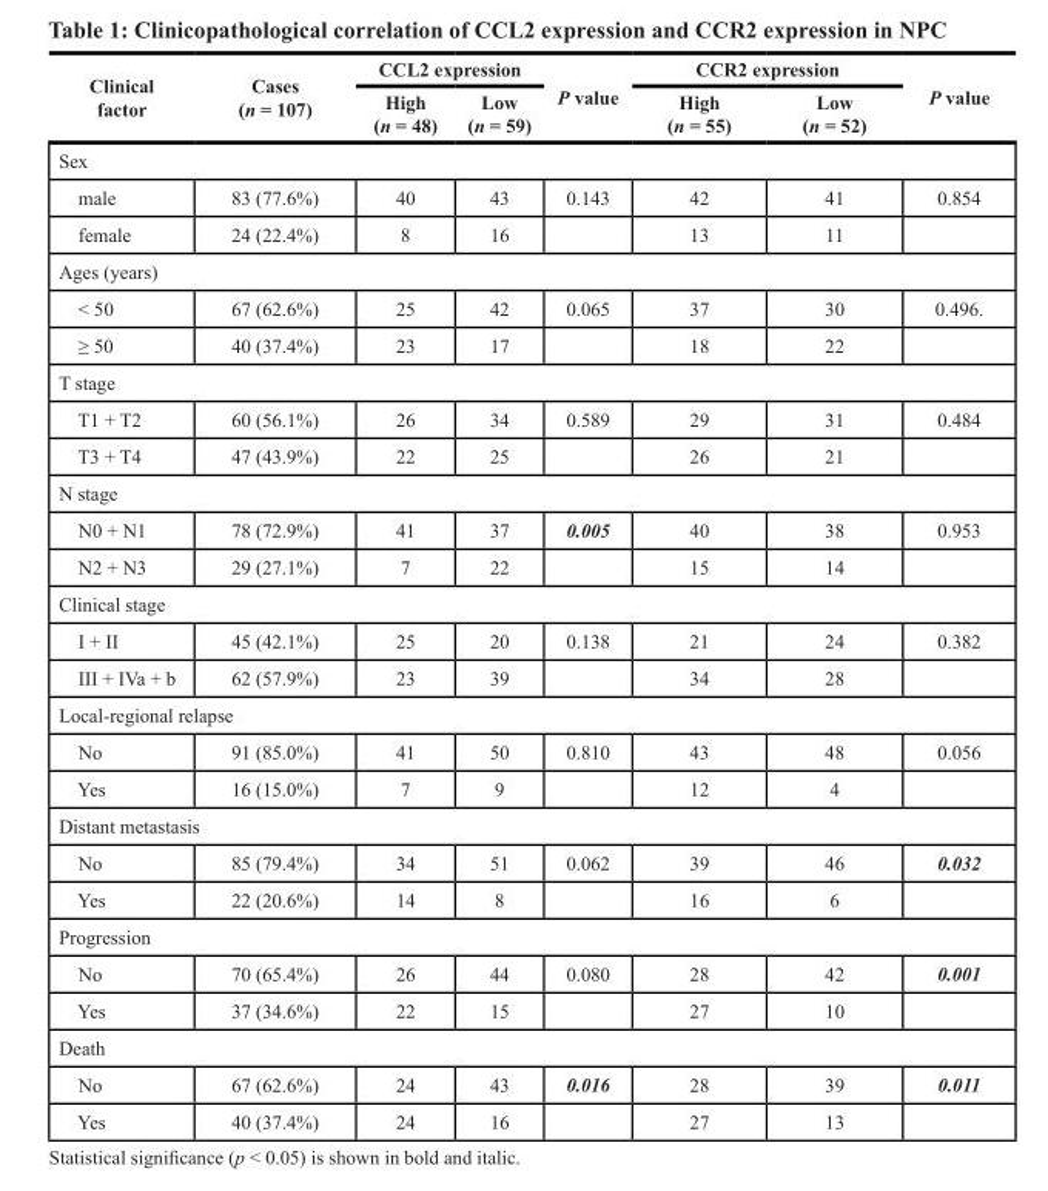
<table><thead><tr><td rowspan="2">Clinical factor</td><td rowspan="2">Cases (n = 107)</td><td colspan="2">CCL2 expression</td><td rowspan="2">P value</td><td colspan="2">CCR2 expression</td><td rowspan="2">P value</td></tr><tr><td>High (n = 48)</td><td>Low (n = 59)</td><td>High (n = 55)</td><td>Low (n = 52)</td></tr></thead><tbody><tr><td colspan="8">Sex</td></tr><tr><td>male</td><td>83 (77.6%)</td><td>40</td><td>43</td><td>0.143</td><td>42</td><td>41</td><td>0.854</td></tr><tr><td>female</td><td>24 (22.4%)</td><td>8</td><td>16</td><td></td><td>13</td><td>11</td><td></td></tr><tr><td colspan="8">Ages (years)</td></tr><tr><td>&lt; 50</td><td>67 (62.6%)</td><td>25</td><td>42</td><td>0.065</td><td>37</td><td>30</td><td>0.496.</td></tr><tr><td>≥ 50</td><td>40 (37.4%)</td><td>23</td><td>17</td><td></td><td>18</td><td>22</td><td></td></tr><tr><td colspan="8">T stage</td></tr><tr><td>T1 + T2</td><td>60 (56.1%)</td><td>26</td><td>34</td><td>0.589</td><td>29</td><td>31</td><td>0.484</td></tr><tr><td>T3 + T4</td><td>47 (43.9%)</td><td>22</td><td>25</td><td></td><td>26</td><td>21</td><td></td></tr><tr><td colspan="8">N stage</td></tr><tr><td>N0 + N1</td><td>78 (72.9%)</td><td>41</td><td>37</td><td>0.005</td><td>40</td><td>38</td><td>0.953</td></tr><tr><td>N2 + N3</td><td>29 (27.1%)</td><td>7</td><td>22</td><td></td><td>15</td><td>14</td><td></td></tr><tr><td colspan="8">Clinical stage</td></tr><tr><td>I + II</td><td>45 (42.1%)</td><td>25</td><td>20</td><td>0.138</td><td>21</td><td>24</td><td>0.382</td></tr><tr><td>III + IVa + b</td><td>62 (57.9%)</td><td>23</td><td>39</td><td></td><td>34</td><td>28</td><td></td></tr><tr><td colspan="8">Local-regional relapse</td></tr><tr><td>No</td><td>91 (85.0%)</td><td>41</td><td>50</td><td>0.810</td><td>43</td><td>48</td><td>0.056</td></tr><tr><td>Yes</td><td>16 (15.0%)</td><td>7</td><td>9</td><td></td><td>12</td><td>4</td><td></td></tr><tr><td colspan="8">Distant metastasis</td></tr><tr><td>No</td><td>85 (79.4%)</td><td>34</td><td>51</td><td>0.062</td><td>39</td><td>46</td><td>0.032</td></tr><tr><td>Yes</td><td>22 (20.6%)</td><td>14</td><td>8</td><td></td><td>16</td><td>6</td><td></td></tr><tr><td colspan="8">Progression</td></tr><tr><td>No</td><td>70 (65.4%)</td><td>26</td><td>44</td><td>0.080</td><td>28</td><td>42</td><td>0.001</td></tr><tr><td>Yes</td><td>37 (34.6%)</td><td>22</td><td>15</td><td></td><td>27</td><td>10</td><td></td></tr><tr><td colspan="8">Death</td></tr><tr><td>No</td><td>67 (62.6%)</td><td>24</td><td>43</td><td>0.016</td><td>28</td><td>39</td><td>0.011</td></tr><tr><td>Yes</td><td>40 (37.4%)</td><td>24</td><td>16</td><td></td><td>27</td><td>13</td><td></td></tr></tbody></table>